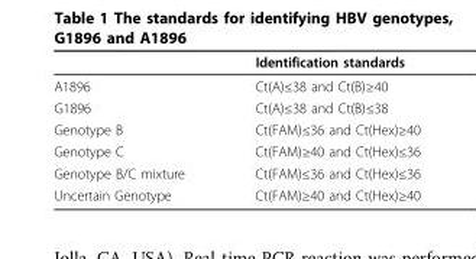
<table><thead><tr><td></td><td>Identification standards</td></tr></thead><tbody><tr><td>A1896</td><td>Ct(A)≤38 and Ct(B)≥40</td></tr><tr><td>G1896</td><td>Ct(A)≤38 and Ct(B)≤38</td></tr><tr><td>Genotype B</td><td>Ct(FAM)≤36 and Ct(Hex)≥40</td></tr><tr><td>Genotype C</td><td>Ct(FAM)≥40 and Ct(Hex)≤36</td></tr><tr><td>Genotype B/C mixture</td><td>Ct(FAM)≤36 and Ct(Hex)≤36</td></tr><tr><td>Uncertain Genotype</td><td>Ct(FAM)≥40 and Ct(Hex)≥40</td></tr></tbody></table>